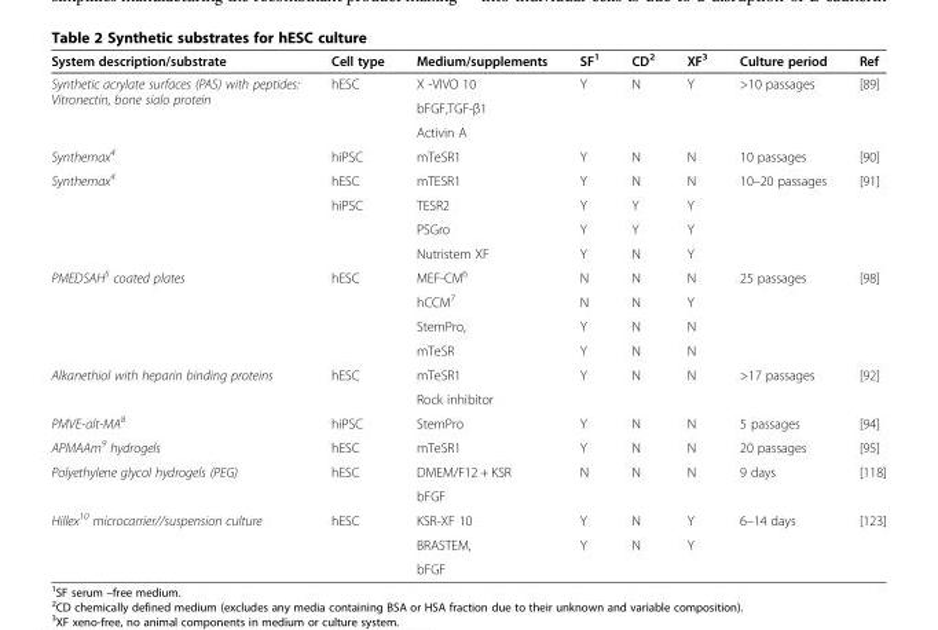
<table><thead><tr><td>System description/substrate</td><td>Cell type</td><td>Medium/supplements</td><td>SF<sup>1</sup></td><td>CD<sup>2</sup></td><td>XF<sup>3</sup></td><td>Culture period</td><td>Ref</td></tr></thead><tbody><tr><td rowspan="3">Synthetic acrylate surfaces (PAS) with peptides: Vitronectin, bone sialo protein</td><td rowspan="3">hESC</td><td>X -VIVO 10</td><td rowspan="3">Y</td><td rowspan="3">N</td><td rowspan="3">Y</td><td rowspan="3">&gt;10 passages</td><td rowspan="3">[89]</td></tr><tr><td>bFGF,TGF-β1</td></tr><tr><td>Activin A</td></tr><tr><td>Synthemax<sup>4</sup></td><td>hiPSC</td><td>mTeSR1</td><td>Y</td><td>N</td><td>N</td><td>10 passages</td><td>[90]</td></tr><tr><td rowspan="4">Synthemax<sup>4</sup></td><td>hESC</td><td>mTESR1</td><td>Y</td><td>N</td><td>N</td><td rowspan="4">10–20 passages</td><td rowspan="4">[91]</td></tr><tr><td rowspan="3">hiPSC</td><td>TESR2</td><td>Y</td><td>Y</td><td>Y</td></tr><tr><td>PSGro</td><td>Y</td><td>Y</td><td>Y</td></tr><tr><td>Nutristem XF</td><td>Y</td><td>N</td><td>Y</td></tr><tr><td rowspan="4">PMEDSAH<sup>5</sup> coated plates</td><td rowspan="4">hESC</td><td>MEF-CM<sup>6</sup></td><td>N</td><td>N</td><td>N</td><td rowspan="2">25 passages</td><td rowspan="4">[98]</td></tr><tr><td>hCCM<sup>7</sup></td><td>N</td><td>N</td><td>Y</td></tr><tr><td>StemPro,</td><td>Y</td><td>N</td><td>N</td><td rowspan="2"></td></tr><tr><td>mTeSR</td><td>Y</td><td>N</td><td>N</td></tr><tr><td rowspan="2">Alkanethiol with heparin binding proteins</td><td rowspan="2">hESC</td><td>mTeSR1</td><td rowspan="2">Y</td><td rowspan="2">N</td><td rowspan="2">N</td><td rowspan="2">&gt;17 passages</td><td rowspan="2">[92]</td></tr><tr><td>Rock inhibitor</td></tr><tr><td>PMVE-alt-MA<sup>8</sup></td><td>hiPSC</td><td>StemPro</td><td>Y</td><td>N</td><td>N</td><td>5 passages</td><td>[94]</td></tr><tr><td>APMAAm<sup>9</sup> hydrogels</td><td>hESC</td><td>mTeSR1</td><td>Y</td><td>N</td><td>N</td><td>20 passages</td><td>[95]</td></tr><tr><td rowspan="2">Polyethylene glycol hydrogels (PEG)</td><td rowspan="2">hESC</td><td>DMEM/F12 + KSR</td><td rowspan="2">N</td><td rowspan="2">N</td><td rowspan="2">N</td><td rowspan="2">9 days</td><td rowspan="2">[118]</td></tr><tr><td>bFGF</td></tr><tr><td rowspan="3">Hillex<sup>10</sup> microcarrier//suspension culture</td><td rowspan="3">hESC</td><td>KSR-XF 10</td><td>Y</td><td>N</td><td>Y</td><td rowspan="3">6–14 days</td><td rowspan="3">[123]</td></tr><tr><td>BRASTEM,</td><td>Y</td><td>N</td><td>Y</td></tr><tr><td>bFGF</td><td></td><td></td><td></td></tr></tbody></table>